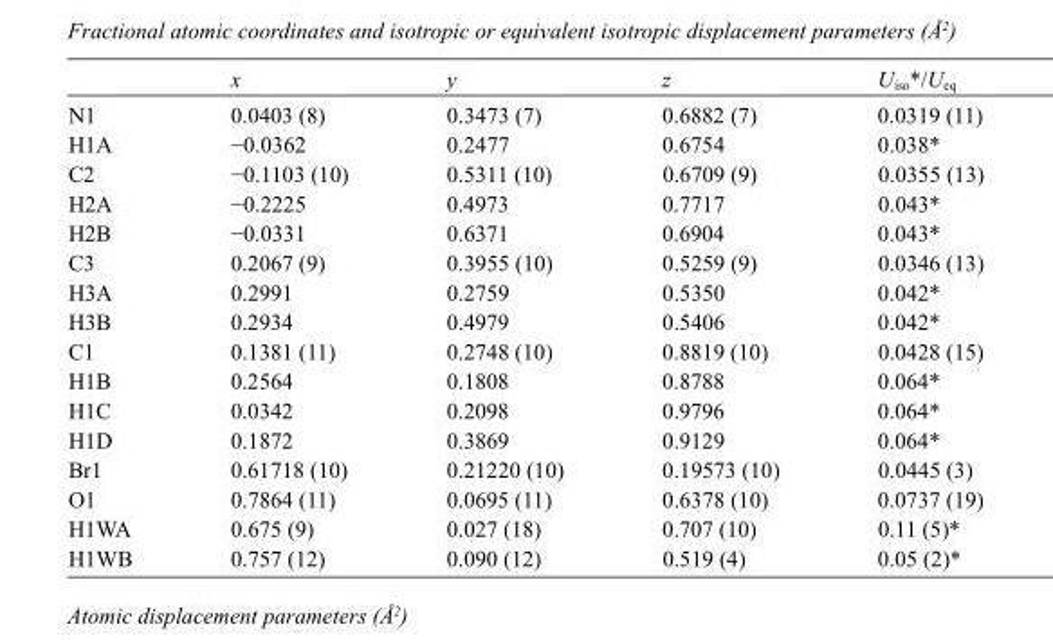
<table><thead><tr><td></td><td>x</td><td>y</td><td>z</td><td>U<sub>iso</sub>*/U<sub>eq</sub></td></tr></thead><tbody><tr><td>N1</td><td>0.0403 (8)</td><td>0.3473 (7)</td><td>0.6882 (7)</td><td>0.0319 (11)</td></tr><tr><td>H1A</td><td>−0.0362</td><td>0.2477</td><td>0.6754</td><td>0.038*</td></tr><tr><td>C2</td><td>−0.1103 (10)</td><td>0.5311 (10)</td><td>0.6709 (9)</td><td>0.0355 (13)</td></tr><tr><td>H2A</td><td>−0.2225</td><td>0.4973</td><td>0.7717</td><td>0.043*</td></tr><tr><td>H2B</td><td>−0.0331</td><td>0.6371</td><td>0.6904</td><td>0.043*</td></tr><tr><td>C3</td><td>0.2067 (9)</td><td>0.3955 (10)</td><td>0.5259 (9)</td><td>0.0346 (13)</td></tr><tr><td>H3A</td><td>0.2991</td><td>0.2759</td><td>0.5350</td><td>0.042*</td></tr><tr><td>H3B</td><td>0.2934</td><td>0.4979</td><td>0.5406</td><td>0.042*</td></tr><tr><td>C1</td><td>0.1381 (11)</td><td>0.2748 (10)</td><td>0.8819 (10)</td><td>0.0428 (15)</td></tr><tr><td>H1B</td><td>0.2564</td><td>0.1808</td><td>0.8788</td><td>0.064*</td></tr><tr><td>H1C</td><td>0.0342</td><td>0.2098</td><td>0.9796</td><td>0.064*</td></tr><tr><td>H1D</td><td>0.1872</td><td>0.3869</td><td>0.9129</td><td>0.064*</td></tr><tr><td>Br1</td><td>0.61718 (10)</td><td>0.21220 (10)</td><td>0.19573 (10)</td><td>0.0445 (3)</td></tr><tr><td>O1</td><td>0.7864 (11)</td><td>0.0695 (11)</td><td>0.6378 (10)</td><td>0.0737 (19)</td></tr><tr><td>H1WA</td><td>0.675 (9)</td><td>0.027 (18)</td><td>0.707 (10)</td><td>0.11 (5)*</td></tr><tr><td>H1WB</td><td>0.757 (12)</td><td>0.090 (12)</td><td>0.519 (4)</td><td>0.05 (2)*</td></tr></tbody></table>